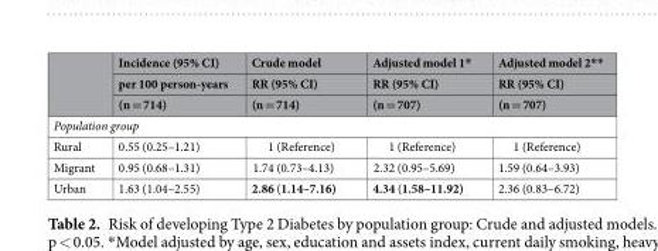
<table><thead><tr><td rowspan="3"></td><td rowspan="3">Incidence (95% CI) per 100 person-years (n = 714)</td><td rowspan="3">Crude model RR (95% CI) (n = 714)</td><td rowspan="3">Adjusted model 1* RR (95% CI) (n = 707)</td><td rowspan="3">Adjusted model 2** RR (95% CI) (n = 707)</td></tr><tr></tr><tr></tr></thead><tbody><tr><td colspan="5">Population group</td></tr><tr><td>Rural</td><td>0.55 (0.25–1.21)</td><td>1 (Reference)</td><td>1 (Reference)</td><td>1 (Reference)</td></tr><tr><td>Migrant</td><td>0.95 (0.68–1.31)</td><td>1.74 (0.73–4.13)</td><td>2.32 (0.95–5.69)</td><td>1.59 (0.64–3.93)</td></tr><tr><td>Urban</td><td>1.63 (1.04–2.55)</td><td>2.86 (1.14–7.16)</td><td>4.34 (1.58–11.92)</td><td>2.36 (0.83–6.72)</td></tr></tbody></table>